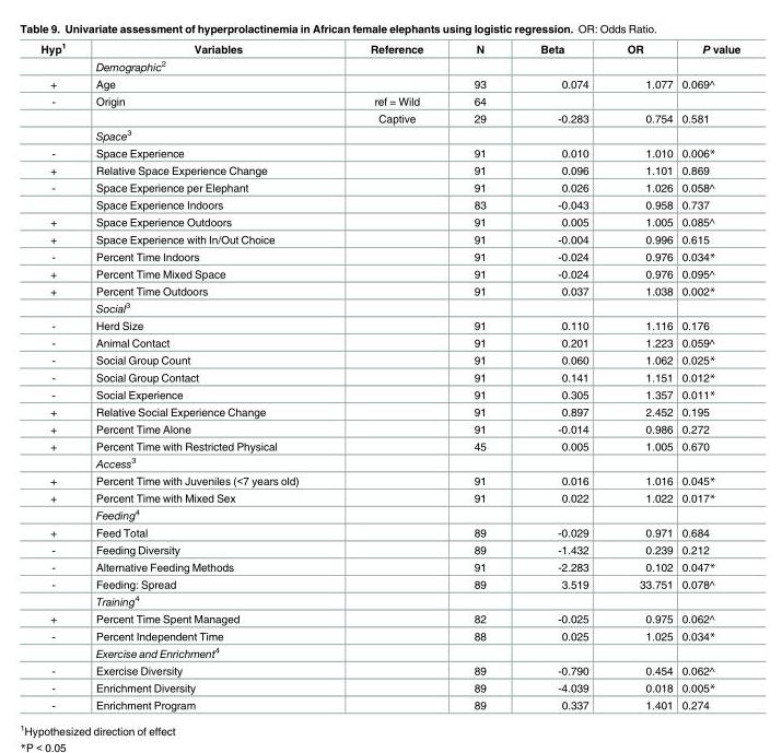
<table><thead><tr><td>Hyp<sup>1</sup></td><td>Variables</td><td>Reference</td><td>N</td><td>Beta</td><td>OR</td><td>P value</td></tr></thead><tbody><tr><td></td><td>Demographic<sup>2</sup></td><td></td><td></td><td></td><td></td><td></td></tr><tr><td>+</td><td>Age</td><td></td><td>93</td><td>0.074</td><td>1.077</td><td>0.069^</td></tr><tr><td rowspan="3">-</td><td>Origin</td><td>ref = Wild</td><td>64</td><td></td><td></td><td></td></tr><tr><td></td><td>Captive</td><td>29</td><td>-0.283</td><td>0.754</td><td>0.581</td></tr><tr><td>Space<sup>3</sup></td><td></td><td></td><td></td><td></td><td></td></tr><tr><td>-</td><td>Space Experience</td><td></td><td>91</td><td>0.010</td><td>1.010</td><td>0.006*</td></tr><tr><td>+</td><td>Relative Space Experience Change</td><td></td><td>91</td><td>0.096</td><td>1.101</td><td>0.869</td></tr><tr><td rowspan="2">-</td><td>Space Experience per Elephant</td><td></td><td>91</td><td>0.026</td><td>1.026</td><td>0.058^</td></tr><tr><td>Space Experience Indoors</td><td></td><td>83</td><td>-0.043</td><td>0.958</td><td>0.737</td></tr><tr><td>+</td><td>Space Experience Outdoors</td><td></td><td>91</td><td>0.005</td><td>1.005</td><td>0.085^</td></tr><tr><td>+</td><td>Space Experience with In/Out Choice</td><td></td><td>91</td><td>-0.004</td><td>0.996</td><td>0.615</td></tr><tr><td>-</td><td>Percent Time Indoors</td><td></td><td>91</td><td>-0.024</td><td>0.976</td><td>0.034*</td></tr><tr><td>+</td><td>Percent Time Mixed Space</td><td></td><td>91</td><td>-0.024</td><td>0.976</td><td>0.095^</td></tr><tr><td rowspan="2">+</td><td>Percent Time Outdoors</td><td></td><td>91</td><td>0.037</td><td>1.038</td><td>0.002*</td></tr><tr><td>Social<sup>3</sup></td><td></td><td></td><td></td><td></td><td></td></tr><tr><td>-</td><td>Herd Size</td><td></td><td>91</td><td>0.110</td><td>1.116</td><td>0.176</td></tr><tr><td>-</td><td>Animal Contact</td><td></td><td>91</td><td>0.201</td><td>1.223</td><td>0.059^</td></tr><tr><td>-</td><td>Social Group Count</td><td></td><td>91</td><td>0.060</td><td>1.062</td><td>0.025*</td></tr><tr><td>-</td><td>Social Group Contact</td><td></td><td>91</td><td>0.141</td><td>1.151</td><td>0.012*</td></tr><tr><td>-</td><td>Social Experience</td><td></td><td>91</td><td>0.305</td><td>1.357</td><td>0.011*</td></tr><tr><td>+</td><td>Relative Social Experience Change</td><td></td><td>91</td><td>0.897</td><td>2.452</td><td>0.195</td></tr><tr><td>+</td><td>Percent Time Alone</td><td></td><td>91</td><td>-0.014</td><td>0.986</td><td>0.272</td></tr><tr><td rowspan="2">+</td><td>Percent Time with Restricted Physical</td><td></td><td>45</td><td>0.005</td><td>1.005</td><td>0.670</td></tr><tr><td>Access<sup>3</sup></td><td></td><td></td><td></td><td></td><td></td></tr><tr><td>+</td><td>Percent Time with Juveniles (&lt;7 years old)</td><td></td><td>91</td><td>0.016</td><td>1.016</td><td>0.045*</td></tr><tr><td rowspan="2">+</td><td>Percent Time with Mixed Sex</td><td></td><td>91</td><td>0.022</td><td>1.022</td><td>0.017*</td></tr><tr><td>Feeding<sup>4</sup></td><td></td><td></td><td></td><td></td><td></td></tr><tr><td>+</td><td>Feed Total</td><td></td><td>89</td><td>-0.029</td><td>0.971</td><td>0.684</td></tr><tr><td>-</td><td>Feeding Diversity</td><td></td><td>89</td><td>-1.432</td><td>0.239</td><td>0.212</td></tr><tr><td>-</td><td>Alternative Feeding Methods</td><td></td><td>91</td><td>-2.283</td><td>0.102</td><td>0.047*</td></tr><tr><td rowspan="2">-</td><td>Feeding: Spread</td><td></td><td>89</td><td>3.519</td><td>33.751</td><td>0.078^</td></tr><tr><td>Training<sup>4</sup></td><td></td><td></td><td></td><td></td><td></td></tr><tr><td>+</td><td>Percent Time Spent Managed</td><td></td><td>82</td><td>-0.025</td><td>0.975</td><td>0.062^</td></tr><tr><td rowspan="2">-</td><td>Percent Independent Time</td><td></td><td>88</td><td>0.025</td><td>1.025</td><td>0.034*</td></tr><tr><td>Exercise and Enrichment<sup>4</sup></td><td></td><td></td><td></td><td></td><td></td></tr><tr><td>-</td><td>Exercise Diversity</td><td></td><td>89</td><td>-0.790</td><td>0.454</td><td>0.062^</td></tr><tr><td>-</td><td>Enrichment Diversity</td><td></td><td>89</td><td>-4.039</td><td>0.018</td><td>0.005*</td></tr><tr><td>-</td><td>Enrichment Program</td><td></td><td>89</td><td>0.337</td><td>1.401</td><td>0.274</td></tr></tbody></table>